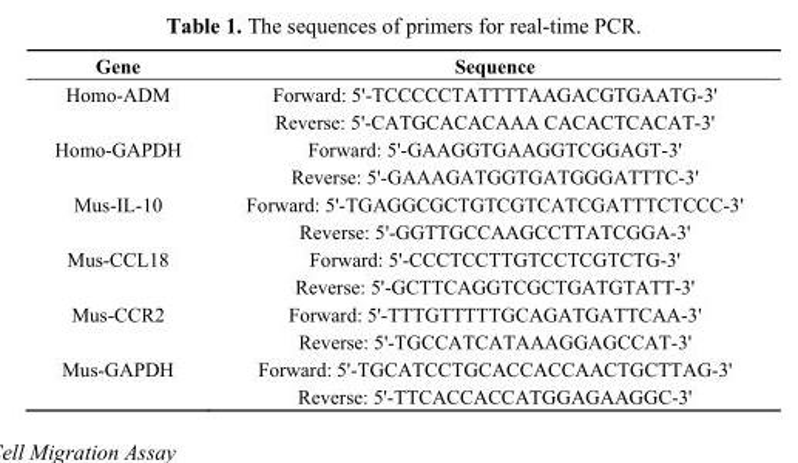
<table><thead><tr><td>Gene</td><td>Sequence</td></tr></thead><tbody><tr><td>Homo-ADM</td><td>Forward: 5&#x27;-TCCCCCTATTTTAAGACGTGAATG-3&#x27; Reverse: 5&#x27;-CATGCACACAAA CACACTCACAT-3&#x27;</td></tr><tr><td>Homo-GAPDH</td><td>Forward: 5&#x27;-GAAGGTGAAGGTCGGAGT-3&#x27; Reverse: 5&#x27;-GAAAGATGGTGATGGGATTTC-3&#x27;</td></tr><tr><td>Mus-IL-10</td><td>Forward: 5&#x27;-TGAGGCGCTGTCGTCATCGATTTCTCCC-3&#x27; Reverse: 5&#x27;-GGTTGCCAAGCCTTATCGGA-3&#x27;</td></tr><tr><td>Mus-CCL18</td><td>Forward: 5&#x27;-CCCTCCTTGTCCTCGTCTG-3&#x27; Reverse: 5&#x27;-GCTTCAGGTCGCTGATGTATT-3&#x27;</td></tr><tr><td>Mus-CCR2</td><td>Forward: 5&#x27;-TTTGTTTTTGCAGATGATTCAA-3&#x27; Reverse: 5&#x27;-TGCCATCATAAAGGAGCCAT-3&#x27;</td></tr><tr><td>Mus-GAPDH</td><td>Forward: 5&#x27;-TGCATCCTGCACCACCAACTGCTTAG-3&#x27; Reverse: 5&#x27;-TTCACCACCATGGAGAAGGC-3&#x27;</td></tr></tbody></table>